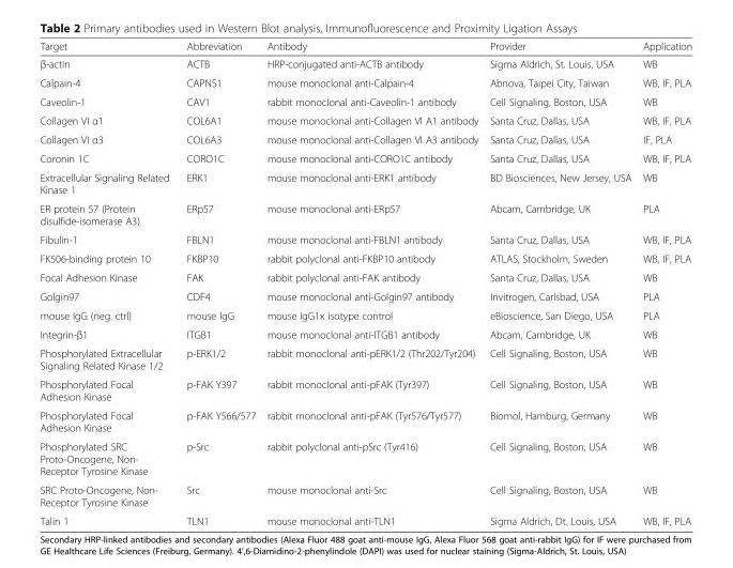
<table><thead><tr><td>Target</td><td>Abbreviation</td><td>Antibody</td><td>Provider</td><td>Application</td></tr></thead><tbody><tr><td>β-actin</td><td>ACTB</td><td>HRP-conjugated anti-ACTB antibody</td><td>Sigma Aldrich, St. Louis, USA</td><td>WB</td></tr><tr><td>Calpain-4</td><td>CAPNS1</td><td>mouse monoclonal anti-Calpain-4</td><td>Abnova, Taipei City, Taiwan</td><td>WB, IF, PLA</td></tr><tr><td>Caveolin-1</td><td>CAV1</td><td>rabbit monoclonal anti-Caveolin-1 antibody</td><td>Cell Signaling, Boston, USA</td><td>WB</td></tr><tr><td>Collagen VI α1</td><td>COL6A1</td><td>mouse monoclonal anti-Collagen VI A1 antibody</td><td>Santa Cruz, Dallas, USA</td><td>WB, IF, PLA</td></tr><tr><td>Collagen VI α3</td><td>COL6A3</td><td>mouse monoclonal anti-Collagen VI A3 antibody</td><td>Santa Cruz, Dallas, USA</td><td>IF, PLA</td></tr><tr><td>Coronin 1C</td><td>CORO1C</td><td>mouse monoclonal anti-CORO1C antibody</td><td>Santa Cruz, Dallas, USA</td><td>WB, IF, PLA</td></tr><tr><td>Extracellular Signaling Related Kinase 1</td><td>ERK1</td><td>mouse monoclonal anti-ERK1 antibody</td><td>BD Biosciences, New Jersey, USA</td><td>WB</td></tr><tr><td>ER protein 57 (Protein disulfide-isomerase A3)</td><td>ERp57</td><td>mouse monoclonal anti-ERp57</td><td>Abcam, Cambridge, UK</td><td>PLA</td></tr><tr><td>Fibulin-1</td><td>FBLN1</td><td>mouse monoclonal anti-FBLN1 antibody</td><td>Santa Cruz, Dallas, USA</td><td>WB, IF, PLA</td></tr><tr><td>FK506-binding protein 10</td><td>FKBP10</td><td>rabbit polyclonal anti-FKBP10 antibody</td><td>ATLAS, Stockholm, Sweden</td><td>WB, IF, PLA</td></tr><tr><td>Focal Adhesion Kinase</td><td>FAK</td><td>rabbit polyclonal anti-FAK antibody</td><td>Santa Cruz, Dallas, USA</td><td>WB</td></tr><tr><td>Golgin97</td><td>CDF4</td><td>mouse monoclonal anti-Golgin97 antibody</td><td>Invitrogen, Carlsbad, USA</td><td>PLA</td></tr><tr><td>mouse IgG (neg. ctrl)</td><td>mouse IgG</td><td>mouse IgG1κ isotype control</td><td>eBioscience, San Diego, USA</td><td>PLA</td></tr><tr><td>Integrin-β1</td><td>ITGB1</td><td>mouse monoclonal anti-ITGB1 antibody</td><td>Abcam, Cambridge, UK</td><td>WB</td></tr><tr><td>Phosphorylated Extracellular Signaling Related Kinase 1/2</td><td>p-ERK1/2</td><td>rabbit monoclonal anti-pERK1/2 (Thr202/Tyr204)</td><td>Cell Signaling, Boston, USA</td><td>WB</td></tr><tr><td>Phosphorylated Focal Adhesion Kinase</td><td>p-FAK Y397</td><td>rabbit monoclonal anti-pFAK (Tyr397)</td><td>Cell Signaling, Boston, USA</td><td>WB</td></tr><tr><td>Phosphorylated Focal Adhesion Kinase</td><td>p-FAK Y566/577</td><td>rabbit monoclonal anti-pFAK (Tyr576/Tyr577)</td><td>Biomol, Hamburg, Germany</td><td>WB</td></tr><tr><td>Phosphorylated SRC Proto-Oncogene, Non- Receptor Tyrosine Kinase</td><td>p-Src</td><td>rabbit polyclonal anti-pSrc (Tyr416)</td><td>Cell Signaling, Boston, USA</td><td>WB</td></tr><tr><td>SRC Proto-Oncogene, Non- Receptor Tyrosine Kinase</td><td>Src</td><td>mouse monoclonal anti-Src</td><td>Cell Signaling, Boston, USA</td><td>WB</td></tr><tr><td>Talin 1</td><td>TLN1</td><td>mouse monoclonal anti-TLN1</td><td>Sigma Aldrich, Dt. Louis, USA</td><td>WB, IF, PLA</td></tr></tbody></table>